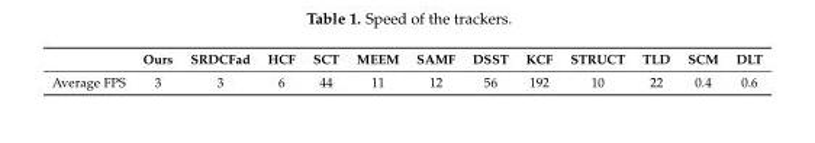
<table><thead><tr><td></td><td>Ours</td><td>SRDCFad</td><td>HCF</td><td>SCT</td><td>MEEM</td><td>SAMF</td><td>DSST</td><td>KCF</td><td>STRUCT</td><td>TLD</td><td>SCM</td><td>DLT</td></tr></thead><tbody><tr><td>Average FPS</td><td>3</td><td>3</td><td>6</td><td>44</td><td>11</td><td>12</td><td>56</td><td>192</td><td>10</td><td>22</td><td>0.4</td><td>0.6</td></tr></tbody></table>